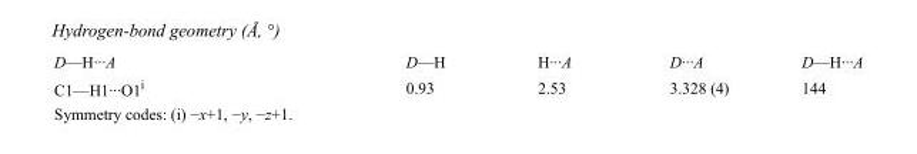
<table><tbody><tr><td>D—H···A</td><td>D—H</td><td>H···A</td><td>D···A</td><td>D—H···A</td></tr><tr><td>C1—H1···O1<sup>i</sup></td><td>0.93</td><td>2.53</td><td>3.328 (4)</td><td>144</td></tr></tbody></table>